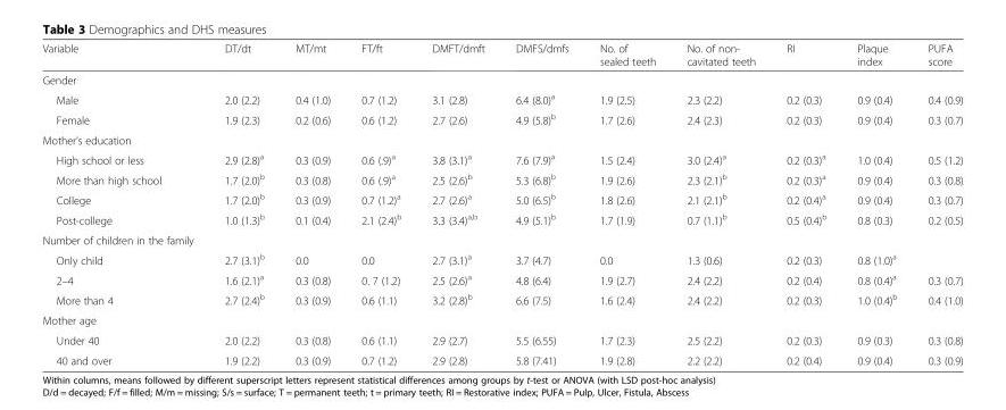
<table><thead><tr><td>Variable</td><td>DT/dt</td><td>MT/mt</td><td>FT/ft</td><td>DMFT/dmft</td><td>DMFS/dmfs</td><td>No. of sealed teeth</td><td>No. of non- cavitated teeth</td><td>RI</td><td>Plaque index</td><td>PUFA score</td></tr></thead><tbody><tr><td colspan="11">Gender</td></tr><tr><td>Male</td><td>2.0 (2.2)</td><td>0.4 (1.0)</td><td>0.7 (1.2)</td><td>3.1 (2.8)</td><td>6.4 (8.0)<sup>a</sup></td><td>1.9 (2.5)</td><td>2.3 (2.2)</td><td>0.2 (0.3)</td><td>0.9 (0.4)</td><td>0.4 (0.9)</td></tr><tr><td>Female</td><td>1.9 (2.3)</td><td>0.2 (0.6)</td><td>0.6 (1.2)</td><td>2.7 (2.6)</td><td>4.9 (5.8)<sup>b</sup></td><td>1.7 (2.6)</td><td>2.4 (2.3)</td><td>0.2 (0.3)</td><td>0.9 (0.4)</td><td>0.3 (0.7)</td></tr><tr><td colspan="11">Mother’s education</td></tr><tr><td>High school or less</td><td>2.9 (2.8)<sup>a</sup></td><td>0.3 (0.9)</td><td>0.6 (.9)<sup>a</sup></td><td>3.8 (3.1)<sup>a</sup></td><td>7.6 (7.9)<sup>a</sup></td><td>1.5 (2.4)</td><td>3.0 (2.4)<sup>a</sup></td><td>0.2 (0.3)<sup>a</sup></td><td>1.0 (0.4)</td><td>0.5 (1.2)</td></tr><tr><td>More than high school</td><td>1.7 (2.0)<sup>b</sup></td><td>0.3 (0.8)</td><td>0.6 (.9)<sup>a</sup></td><td>2.5 (2.6)<sup>b</sup></td><td>5.3 (6.8)<sup>b</sup></td><td>1.9 (2.6)</td><td>2.3 (2.1)<sup>b</sup></td><td>0.2 (0.3)<sup>a</sup></td><td>0.9 (0.4)</td><td>0.3 (0.8)</td></tr><tr><td>College</td><td>1.7 (2.0)<sup>b</sup></td><td>0.3 (0.9)</td><td>0.7 (1.2)<sup>a</sup></td><td>2.7 (2.6)<sup>a</sup></td><td>5.0 (6.5)<sup>b</sup></td><td>1.8 (2.6)</td><td>2.1 (2.1)<sup>b</sup></td><td>0.2 (0.4)<sup>a</sup></td><td>0.9 (0.4)</td><td>0.3 (0.7)</td></tr><tr><td>Post-college</td><td>1.0 (1.3)<sup>b</sup></td><td>0.1 (0.4)</td><td>2.1 (2.4)<sup>b</sup></td><td>3.3 (3.4)<sup>a,b</sup></td><td>4.9 (5.1)<sup>b</sup></td><td>1.7 (1.9)</td><td>0.7 (1.1)<sup>b</sup></td><td>0.5 (0.4)<sup>b</sup></td><td>0.8 (0.3)</td><td>0.2 (0.5)</td></tr><tr><td colspan="11">Number of children in the family</td></tr><tr><td>Only child</td><td>2.7 (3.1)<sup>b</sup></td><td>0.0</td><td>0.0</td><td>2.7 (3.1)<sup>a</sup></td><td>3.7 (4.7)</td><td>0.0</td><td>1.3 (0.6)</td><td>0.2 (0.3)</td><td>0.8 (1.0)<sup>a</sup></td><td></td></tr><tr><td>2–4</td><td>1.6 (2.1)<sup>a</sup></td><td>0.3 (0.8)</td><td>0. 7 (1.2)</td><td>2.5 (2.6)<sup>a</sup></td><td>4.8 (6.4)</td><td>1.9 (2.7)</td><td>2.4 (2.2)</td><td>0.2 (0.4)</td><td>0.8 (0.4)<sup>a</sup></td><td>0.3 (0.7)</td></tr><tr><td>More than 4</td><td>2.7 (2.4)<sup>b</sup></td><td>0.3 (0.9)</td><td>0.6 (1.1)</td><td>3.2 (2.8)<sup>b</sup></td><td>6.6 (7.5)</td><td>1.6 (2.4)</td><td>2.4 (2.2)</td><td>0.2 (0.3)</td><td>1.0 (0.4)<sup>b</sup></td><td>0.4 (1.0)</td></tr><tr><td colspan="11">Mother age</td></tr><tr><td>Under 40</td><td>2.0 (2.2)</td><td>0.3 (0.8)</td><td>0.6 (1.1)</td><td>2.9 (2.7)</td><td>5.5 (6.55)</td><td>1.7 (2.3)</td><td>2.5 (2.2)</td><td>0.2 (0.3)</td><td>0.9 (0.3)</td><td>0.3 (0.8)</td></tr><tr><td>40 and over</td><td>1.9 (2.2)</td><td>0.3 (0.9)</td><td>0.7 (1.2)</td><td>2.9 (2.8)</td><td>5.8 (7.41)</td><td>1.9 (2.8)</td><td>2.2 (2.2)</td><td>0.2 (0.4)</td><td>0.9 (0.4)</td><td>0.3 (0.9)</td></tr></tbody></table>